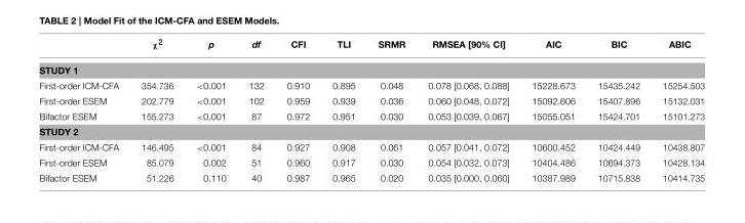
<table><thead><tr><td></td><td>χ<sup>2</sup></td><td>p</td><td>df</td><td>CFI</td><td>TLI</td><td>SRMR</td><td>RMSEA [90% CI]</td><td>AIC</td><td>BIC</td><td>ABIC</td></tr></thead><tbody><tr><td colspan="11">STUDY 1</td></tr><tr><td>First-order ICM-CFA</td><td>354.736</td><td>&lt;0.001</td><td>132</td><td>0.910</td><td>0.895</td><td>0.048</td><td>0.078 [0.068, 0.088]</td><td>15228.673</td><td>15435.242</td><td>15254.503</td></tr><tr><td>First-order ESEM</td><td>202.779</td><td>&lt;0.001</td><td>102</td><td>0.959</td><td>0.939</td><td>0.036</td><td>0.060 [0.048, 0.072]</td><td>15092.606</td><td>15407.896</td><td>15132.031</td></tr><tr><td>Bifactor ESEM</td><td>155.273</td><td>&lt;0.001</td><td>87</td><td>0.972</td><td>0.951</td><td>0.030</td><td>0.053 [0.039, 0.067]</td><td>15055.051</td><td>15424.701</td><td>15101.273</td></tr><tr><td colspan="11">STUDY 2</td></tr><tr><td>First-order ICM-CFA</td><td>146.495</td><td>&lt;0.001</td><td>84</td><td>0.927</td><td>0.908</td><td>0.061</td><td>0.057 [0.041, 0.072]</td><td>10600.452</td><td>10424.449</td><td>10438.807</td></tr><tr><td>First-order ESEM</td><td>85.079</td><td>0.002</td><td>51</td><td>0.960</td><td>0.917</td><td>0.030</td><td>0.054 [0.032, 0.073]</td><td>10404.486</td><td>10694.373</td><td>10428.134</td></tr><tr><td>Bifactor ESEM</td><td>51.226</td><td>0.110</td><td>40</td><td>0.987</td><td>0.965</td><td>0.020</td><td>0.035 [0.000, 0.060]</td><td>10387.989</td><td>10715.838</td><td>10414.735</td></tr></tbody></table>